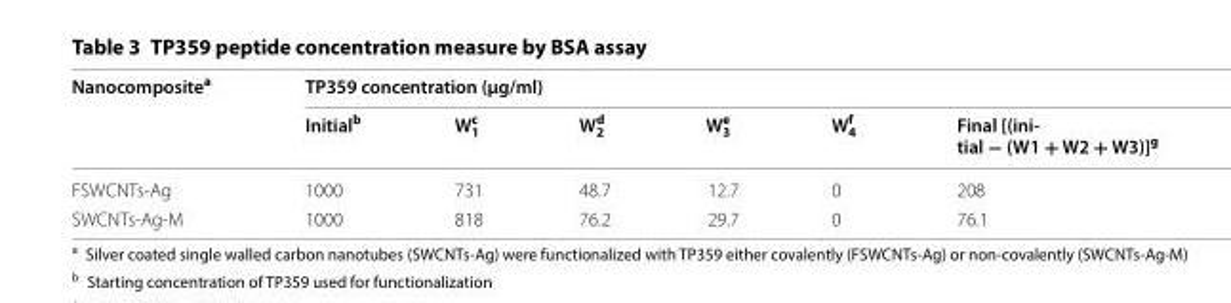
<table><thead><tr><td rowspan="2">Nanocomposite<sup>a</sup></td><td colspan="6">TP359 concentration (µg/ml)</td></tr><tr><td>Initial<sup>b</sup></td><td>W<sub>1</sub> <sup>c</sup></td><td>W<sub>2</sub> <sup>d</sup></td><td>W<sub>3</sub> <sup>e</sup></td><td>W<sub>4</sub> <sup>f</sup></td><td>Final [(ini‑ tial − (W1 + W2 + W3)]g</td></tr></thead><tbody><tr><td>FSWCNTs-Ag</td><td>1000</td><td>731</td><td>48.7</td><td>12.7</td><td>0</td><td>208</td></tr><tr><td>SWCNTs-Ag-M</td><td>1000</td><td>818</td><td>76.2</td><td>29.7</td><td>0</td><td>76.1</td></tr></tbody></table>